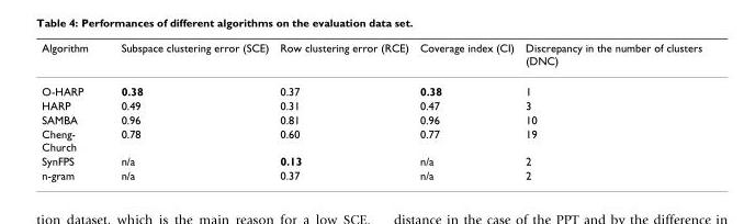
<table><thead><tr><td>Algorithm</td><td>Subspace clustering error (SCE)</td><td>Row clustering error (RCE)</td><td>Coverage index (CI)</td><td>Discrepancy in the number of clusters (DNC)</td></tr></thead><tbody><tr><td>O-HARP</td><td>0.38</td><td>0.37</td><td>0.38</td><td>1</td></tr><tr><td>HARP</td><td>0.49</td><td>0.31</td><td>0.47</td><td>3</td></tr><tr><td>SAMBA</td><td>0.96</td><td>0.81</td><td>0.96</td><td>10</td></tr><tr><td>Cheng- Church</td><td>0.78</td><td>0.60</td><td>0.77</td><td>19</td></tr><tr><td>SynFPS</td><td>n/a</td><td>0.13</td><td>n/a</td><td>2</td></tr><tr><td>n-gram</td><td>n/a</td><td>0.37</td><td>n/a</td><td>2</td></tr></tbody></table>